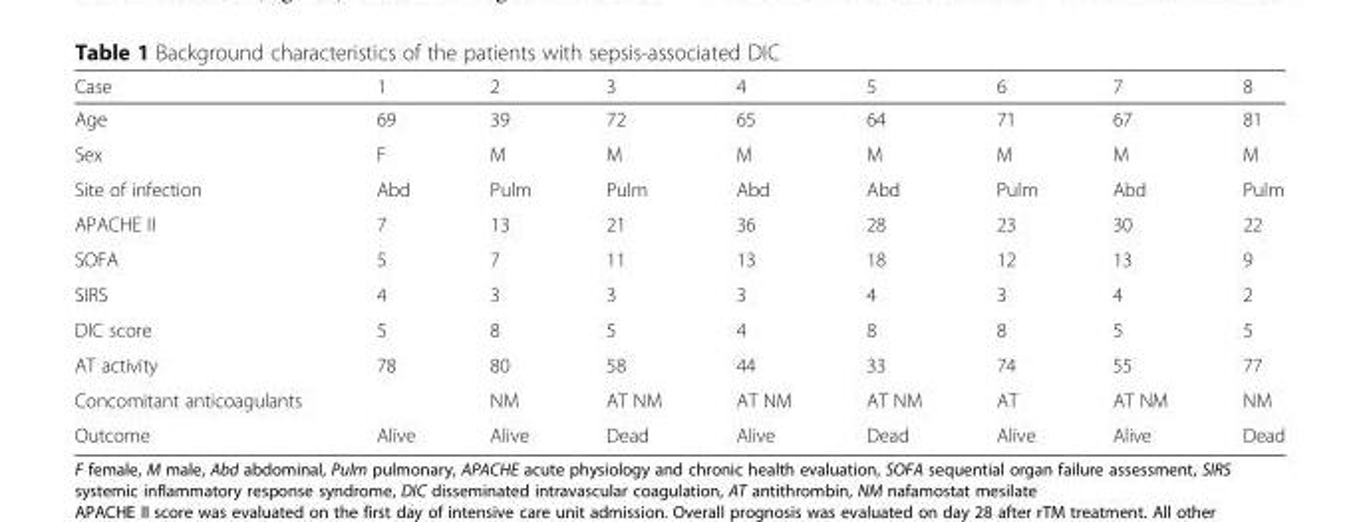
<table><thead><tr><td>Case</td><td>1</td><td>2</td><td>3</td><td>4</td><td>5</td><td>6</td><td>7</td><td>8</td></tr></thead><tbody><tr><td>Age</td><td>69</td><td>39</td><td>72</td><td>65</td><td>64</td><td>71</td><td>67</td><td>81</td></tr><tr><td>Sex</td><td>F</td><td>M</td><td>M</td><td>M</td><td>M</td><td>M</td><td>M</td><td>M</td></tr><tr><td>Site of infection</td><td>Abd</td><td>Pulm</td><td>Pulm</td><td>Abd</td><td>Abd</td><td>Pulm</td><td>Abd</td><td>Pulm</td></tr><tr><td>APACHE II</td><td>7</td><td>13</td><td>21</td><td>36</td><td>28</td><td>23</td><td>30</td><td>22</td></tr><tr><td>SOFA</td><td>5</td><td>7</td><td>11</td><td>13</td><td>18</td><td>12</td><td>13</td><td>9</td></tr><tr><td>SIRS</td><td>4</td><td>3</td><td>3</td><td>3</td><td>4</td><td>3</td><td>4</td><td>2</td></tr><tr><td>DIC score</td><td>5</td><td>8</td><td>5</td><td>4</td><td>8</td><td>8</td><td>5</td><td>5</td></tr><tr><td>AT activity</td><td>78</td><td>80</td><td>58</td><td>44</td><td>33</td><td>74</td><td>55</td><td>77</td></tr><tr><td>Concomitant anticoagulants</td><td></td><td>NM</td><td>AT NM</td><td>AT NM</td><td>AT NM</td><td>AT</td><td>AT NM</td><td>NM</td></tr><tr><td>Outcome</td><td>Alive</td><td>Alive</td><td>Dead</td><td>Alive</td><td>Dead</td><td>Alive</td><td>Alive</td><td>Dead</td></tr></tbody></table>